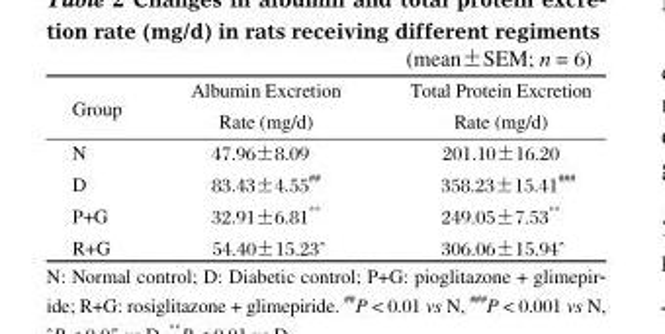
<table><thead><tr><td rowspan="2">Group</td><td rowspan="2">Albumin Excretion Rate (mg/d)</td><td rowspan="2">Total Protein Excretion Rate (mg/d)</td></tr><tr></tr></thead><tbody><tr><td>N</td><td>47.96±8.09 ##</td><td>201.10±16.20</td></tr><tr><td>D</td><td>83.43±4.55 <sup>##</sup></td><td>00358.23±15.41 ###</td></tr><tr><td>P+G</td><td>32.91±6.81 **</td><td>249.05±7.53 **</td></tr><tr><td>R+G</td><td>054.40±15.23^</td><td>306.06±15.94^</td></tr></tbody></table>